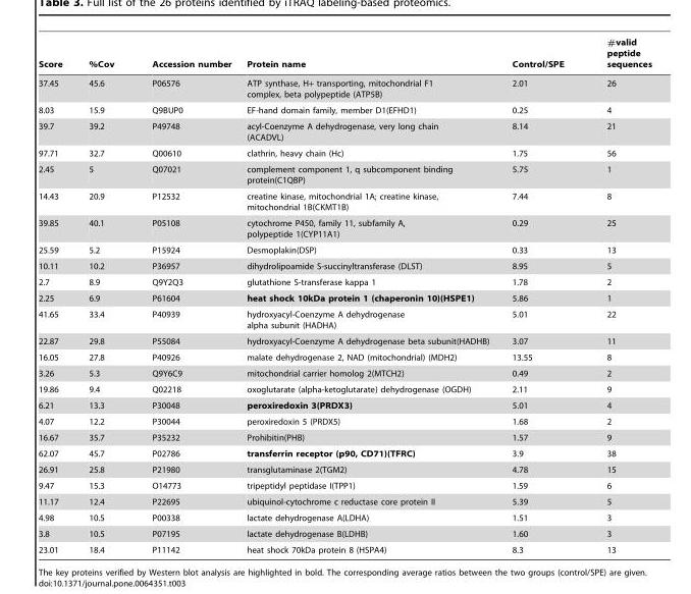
<table><thead><tr><td>Score</td><td>%Cov</td><td>Accession number</td><td>Protein name</td><td>Control/SPE</td><td>#valid peptide sequences</td></tr></thead><tbody><tr><td>37.45</td><td>45.6</td><td>P06576</td><td>ATP synthase, H+ transporting, mitochondrial F1 complex, beta polypeptide (ATP5B)</td><td>2.01</td><td>26</td></tr><tr><td>8.03</td><td>15.9</td><td>Q9BUP0</td><td>EF-hand domain family, member D1(EFHD1)</td><td>0.25</td><td>4</td></tr><tr><td>39.7</td><td>39.2</td><td>P49748</td><td>acyl-Coenzyme A dehydrogenase, very long chain (ACADVL)</td><td>8.14</td><td>21</td></tr><tr><td>97.71</td><td>32.7</td><td>Q00610</td><td>clathrin, heavy chain (Hc)</td><td>1.75</td><td>56</td></tr><tr><td>2.45</td><td>5</td><td>Q07021</td><td>complement component 1, q subcomponent binding protein(C1QBP)</td><td>5.75</td><td>1</td></tr><tr><td>14.43</td><td>20.9</td><td>P12532</td><td>creatine kinase, mitochondrial 1A; creatine kinase, mitochondrial 1B(CKMT1B)</td><td>7.44</td><td>8</td></tr><tr><td>39.85</td><td>40.1</td><td>P05108</td><td>cytochrome P450, family 11, subfamily A, polypeptide 1(CYP11A1)</td><td>0.29</td><td>25</td></tr><tr><td>25.59</td><td>5.2</td><td>P15924</td><td>Desmoplakin(DSP)</td><td>0.33</td><td>13</td></tr><tr><td>10.11</td><td>10.2</td><td>P36957</td><td>dihydrolipoamide S-succinyltransferase (DLST)</td><td>8.95</td><td>5</td></tr><tr><td>2.7</td><td>8.9</td><td>Q9Y2Q3</td><td>glutathione S-transferase kappa 1</td><td>1.78</td><td>2</td></tr><tr><td>2.25</td><td>6.9</td><td>P61604</td><td>heat shock 10kDa protein 1 (chaperonin 10)(HSPE1)</td><td>5.86</td><td>1</td></tr><tr><td>41.65</td><td>33.4</td><td>P40939</td><td>hydroxyacyl-Coenzyme A dehydrogenase alpha subunit (HADHA)</td><td>5.01</td><td>22</td></tr><tr><td>22.87</td><td>29.8</td><td>P55084</td><td>hydroxyacyl-Coenzyme A dehydrogenase beta subunit(HADHB)</td><td>3.07</td><td>11</td></tr><tr><td>16.05</td><td>27.8</td><td>P40926</td><td>malate dehydrogenase 2, NAD (mitochondrial) (MDH2)</td><td>13.55</td><td>8</td></tr><tr><td>3.26</td><td>5.3</td><td>Q9Y6C9</td><td>mitochondrial carrier homolog 2(MTCH2)</td><td>0.49</td><td>2</td></tr><tr><td>19.86</td><td>9.4</td><td>Q02218</td><td>oxoglutarate (alpha-ketoglutarate) dehydrogenase (OGDH)</td><td>2.11</td><td>9</td></tr><tr><td>6.21</td><td>13.3</td><td>P30048</td><td>peroxiredoxin 3(PRDX3)</td><td>5.01</td><td>4</td></tr><tr><td>4.07</td><td>12.2</td><td>P30044</td><td>peroxiredoxin 5 (PRDX5)</td><td>1.68</td><td>2</td></tr><tr><td>16.67</td><td>35.7</td><td>P35232</td><td>Prohibitin(PHB)</td><td>1.57</td><td>9</td></tr><tr><td>62.07</td><td>45.7</td><td>P02786</td><td>transferrin receptor (p90, CD71)(TFRC)</td><td>3.9</td><td>38</td></tr><tr><td>26.91</td><td>25.8</td><td>P21980</td><td>transglutaminase 2(TGM2)</td><td>4.78</td><td>15</td></tr><tr><td>9.47</td><td>15.3</td><td>O14773</td><td>tripeptidyl peptidase I(TPP1)</td><td>1.59</td><td>6</td></tr><tr><td>11.17</td><td>12.4</td><td>P22695</td><td>ubiquinol-cytochrome c reductase core protein II</td><td>5.39</td><td>5</td></tr><tr><td>4.98</td><td>10.5</td><td>P00338</td><td>lactate dehydrogenase A(LDHA)</td><td>1.51</td><td>3</td></tr><tr><td>3.8</td><td>10.5</td><td>P07195</td><td>lactate dehydrogenase B(LDHB)</td><td>1.60</td><td>3</td></tr><tr><td>23.01</td><td>18.4</td><td>P11142</td><td>heat shock 70kDa protein 8 (HSPA4)</td><td>8.3</td><td>13</td></tr></tbody></table>